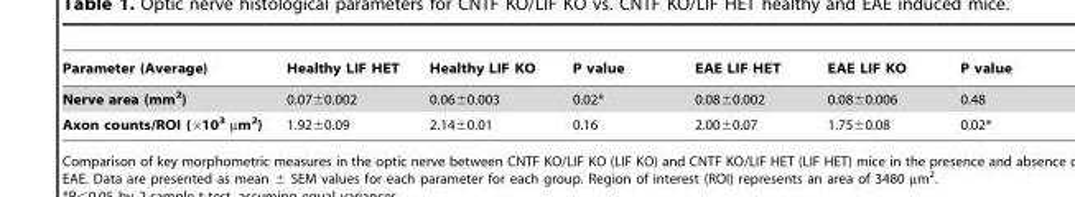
<table><thead><tr><td>Parameter (Average)</td><td>Healthy LIF HET</td><td>Healthy LIF KO</td><td>P value</td><td>EAE LIF HET</td><td>EAE LIF KO</td><td>P value</td></tr></thead><tbody><tr><td>Nerve area (mm<sup>2</sup>)</td><td>0.07±0.002</td><td>0.06±0.003</td><td>0.02*</td><td>0.08±0.002</td><td>0.08±0.006</td><td>0.48</td></tr><tr><td>Axon counts/ROI (×10<sup>3</sup> µm<sup>2</sup>)</td><td>1.92±0.09</td><td>2.14±0.01</td><td>0.16</td><td>2.00±0.07</td><td>1.75±0.08</td><td>0.02*</td></tr></tbody></table>